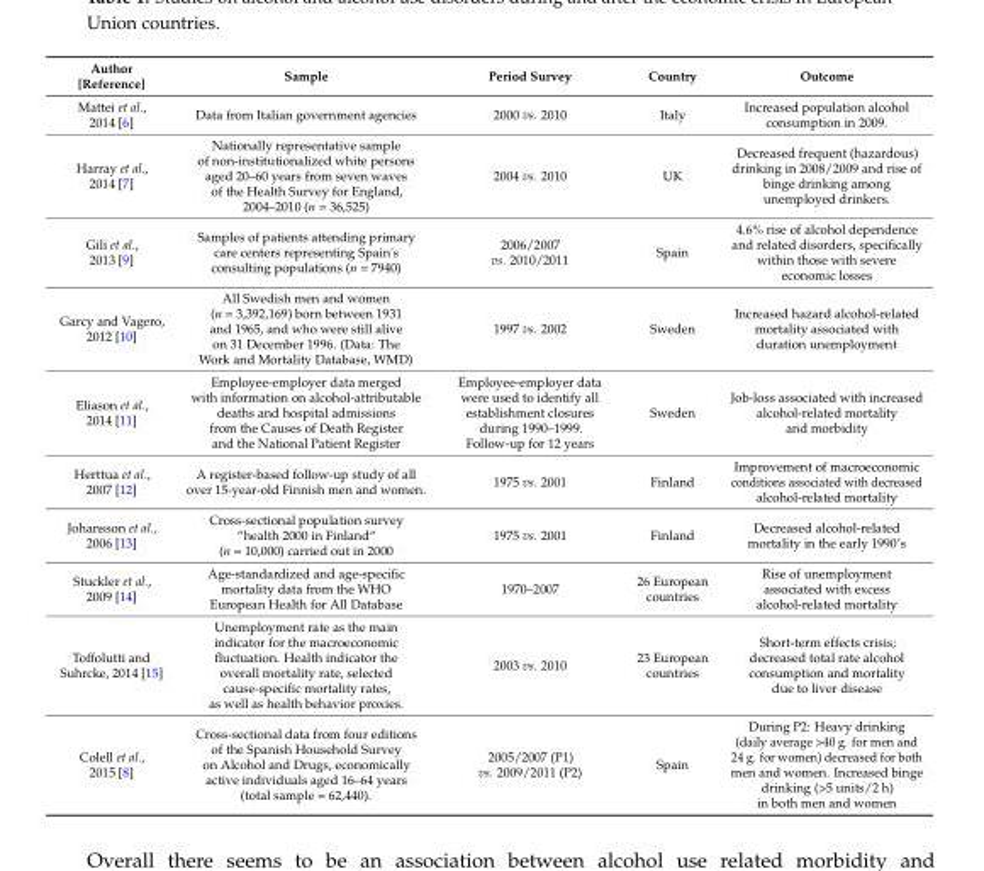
<table><thead><tr><td>Author [Reference]</td><td>Sample</td><td>Period Survey</td><td>Country</td><td>Outcome</td></tr></thead><tbody><tr><td>Mattei et al., 2014 [6]</td><td>Data from Italian government agencies</td><td>2000 vs. 2010</td><td>Italy</td><td>Increased population alcohol consumption in 2009.</td></tr><tr><td>Harray et al., 2014 [7]</td><td>Nationally representative sample of non-institutionalized white persons aged 20–60 years from seven waves of the Health Survey for England, 2004–2010 (n = 36,525)</td><td>2004 vs. 2010</td><td>UK</td><td>Decreased frequent (hazardous) drinking in 2008/2009 and rise of binge drinking among unemployed drinkers.</td></tr><tr><td>Gili et al., 2013 [9]</td><td>Samples of patients attending primary care centers representing Spain&#x27;s consulting populations (n = 7940)</td><td>2006/2007 vs. 2010/2011</td><td>Spain</td><td>4.6% rise of alcohol dependence and related disorders, specifically within those with severe economic losses</td></tr><tr><td>Garcy and Vagero, 2012 [10]</td><td>All Swedish men and women (n = 3,392,169) born between 1931 and 1965, and who were still alive on 31 December 1996. (Data: The Work and Mortality Database, WMD)</td><td>1997 vs. 2002</td><td>Sweden</td><td>Increased hazard alcohol-related mortality associated with duration unemployment</td></tr><tr><td>Eliason et al., 2014 [11]</td><td>Employee-employer data merged with information on alcohol-attributable deaths and hospital admissions from the Causes of Death Register and the National Patient Register</td><td>Employee-employer data were used to identify all establishment closures during 1990–1999. Follow-up for 12 years</td><td>Sweden</td><td>Job-loss associated with increased alcohol-related mortality and morbidity</td></tr><tr><td>Herttua et al., 2007 [12]</td><td>A register-based follow-up study of all over 15-year-old Finnish men and women.</td><td>1975 vs. 2001</td><td>Finland</td><td>Improvement of macroeconomic conditions associated with decreased alcohol-related mortality</td></tr><tr><td>Johansson et al., 2006 [13]</td><td>Cross-sectional population survey “health 2000 in Finland“ (n = 10,000) carried out in 2000</td><td>1975 vs. 2001</td><td>Finland</td><td>Decreased alcohol-related mortality in the early 1990’s</td></tr><tr><td>Stuckler et al., 2009 [14]</td><td>Age-standardized and age-specific mortality data from the WHO European Health for All Database</td><td>1970–2007</td><td>26 European countries</td><td>Rise of unemployment associated with excess alcohol-related mortality</td></tr><tr><td>Toffolutti and Suhrcke, 2014 [15]</td><td>Unemployment rate as the main indicator for the macroeconomic fluctuation. Health indicator the overall mortality rate, selected cause-specific mortality rates, as well as health behavior proxies.</td><td>2003 vs. 2010</td><td>23 European countries</td><td>Short-term effects crisis; decreased total rate alcohol consumption and mortality due to liver disease</td></tr><tr><td>Colell et al., 2015 [8]</td><td>Cross-sectional data from four editions of the Spanish Household Survey on Alcohol and Drugs, economically active individuals aged 16–64 years (total sample = 62,440).</td><td>2005/2007 (P1) vs. 2009/2011 (P2)</td><td>Spain</td><td>During P2: Heavy drinking (daily average &gt;40 g. for men and 24 g. for women) decreased for both men and women. Increased binge drinking (&gt;5 units/2 h) in both men and women</td></tr></tbody></table>